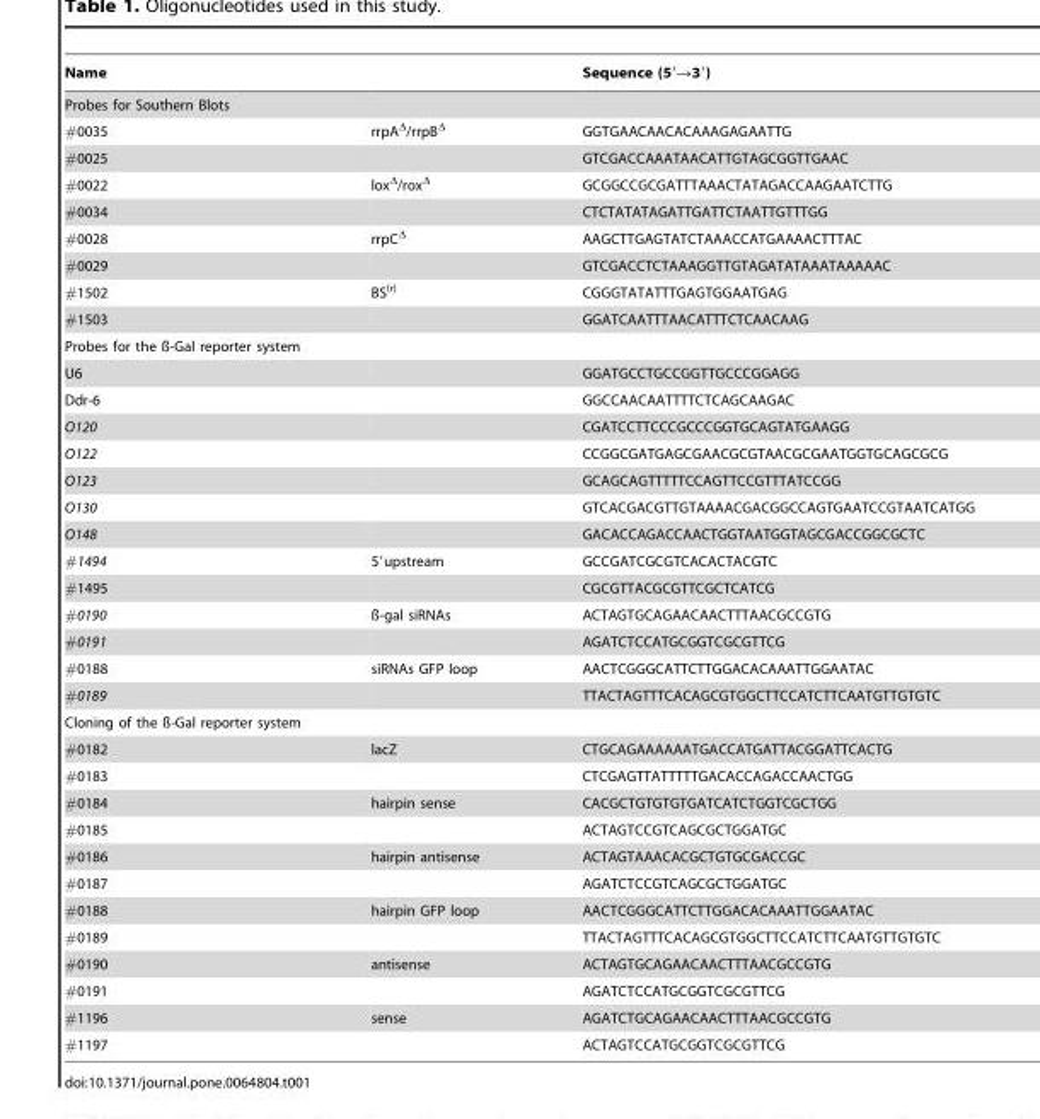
<table><thead><tr><td>Name</td><td></td><td>Sequence (5′→3′)</td></tr></thead><tbody><tr><td colspan="3">Probes for Southern Blots</td></tr><tr><td>#0035</td><td>rrpA<sup>Δ</sup>/rrpB<sup>Δ</sup></td><td>GGTGAACAACACAAAGAGAATTG</td></tr><tr><td>#0025</td><td></td><td>GTCGACCAAATAACATTGTAGCGGTTGAAC</td></tr><tr><td>#0022</td><td>lox<sup>Δ</sup>/rox<sup>Δ</sup></td><td>GCGGCCGCGATTTAAACTATAGACCAAGAATCTTG</td></tr><tr><td>#0034</td><td></td><td>CTCTATATAGATTGATTCTAATTGTTTGG</td></tr><tr><td>#0028</td><td>rrpC<sup>Δ</sup></td><td>AAGCTTGAGTATCTAAACCATGAAAACTTTAC</td></tr><tr><td>#0029</td><td></td><td>GTCGACCTCTAAAGGTTGTAGATATAAATAAAAAC</td></tr><tr><td>#1502</td><td>BS<sup>(r)</sup></td><td>CGGGTATATTTGAGTGGAATGAG</td></tr><tr><td>#1503</td><td></td><td>GGATCAATTTAACATTTCTCAACAAG</td></tr><tr><td colspan="3">Probes for the ß-Gal reporter system</td></tr><tr><td>U6</td><td></td><td>GGATGCCTGCCGGTTGCCCGGAGG</td></tr><tr><td>Ddr-6</td><td></td><td>GGCCAACAATTTTCTCAGCAAGAC</td></tr><tr><td>O120</td><td></td><td>CGATCCTTCCCGCCCGGTGCAGTATGAAGG</td></tr><tr><td>O122</td><td></td><td>CCGGCGATGAGCGAACGCGTAACGCGAATGGTGCAGCGCG</td></tr><tr><td>O123</td><td></td><td>GCAGCAGTTTTTCCAGTTCCGTTTATCCGG</td></tr><tr><td>O130</td><td></td><td>GTCACGACGTTGTAAAACGACGGCCAGTGAATCCGTAATCATGG</td></tr><tr><td>O148</td><td></td><td>GACACCAGACCAACTGGTAATGGTAGCGACCGGCGCTC</td></tr><tr><td>#1494</td><td>5′upstream</td><td>GCCGATCGCGTCACACTACGTC</td></tr><tr><td>#1495</td><td></td><td>CGCGTTACGCGTTCGCTCATCG</td></tr><tr><td>#0190</td><td>ß-gal siRNAs</td><td>ACTAGTGCAGAACAACTTTAACGCCGTG</td></tr><tr><td>#0191</td><td></td><td>AGATCTCCATGCGGTCGCGTTCG</td></tr><tr><td>#0188</td><td>siRNAs GFP loop</td><td>AACTCGGGCATTCTTGGACACAAATTGGAATAC</td></tr><tr><td>#0189</td><td></td><td>TTACTAGTTTCACAGCGTGGCTTCCATCTTCAATGTTGTGTC</td></tr><tr><td colspan="3">Cloning of the ß-Gal reporter system</td></tr><tr><td>#0182</td><td>lacZ</td><td>CTGCAGAAAAAATGACCATGATTACGGATTCACTG</td></tr><tr><td>#0183</td><td></td><td>CTCGAGTTATTTTTGACACCAGACCAACTGG</td></tr><tr><td>#0184</td><td>hairpin sense</td><td>CACGCTGTGTGTGATCATCTGGTCGCTGG</td></tr><tr><td>#0185</td><td></td><td>ACTAGTCCGTCAGCGCTGGATGC</td></tr><tr><td>#0186</td><td>hairpin antisense</td><td>ACTAGTAAACACGCTGTGCGACCGC</td></tr><tr><td>#0187</td><td></td><td>AGATCTCCGTCAGCGCTGGATGC</td></tr><tr><td>#0188</td><td>hairpin GFP loop</td><td>AACTCGGGCATTCTTGGACACAAATTGGAATAC</td></tr><tr><td>#0189</td><td></td><td>TTACTAGTTTCACAGCGTGGCTTCCATCTTCAATGTTGTGTC</td></tr><tr><td>#0190</td><td>antisense</td><td>ACTAGTGCAGAACAACTTTAACGCCGTG</td></tr><tr><td>#0191</td><td></td><td>AGATCTCCATGCGGTCGCGTTCG</td></tr><tr><td>#1196</td><td>sense</td><td>AGATCTGCAGAACAACTTTAACGCCGTG</td></tr><tr><td>#1197</td><td></td><td>ACTAGTCCATGCGGTCGCGTTCG</td></tr></tbody></table>